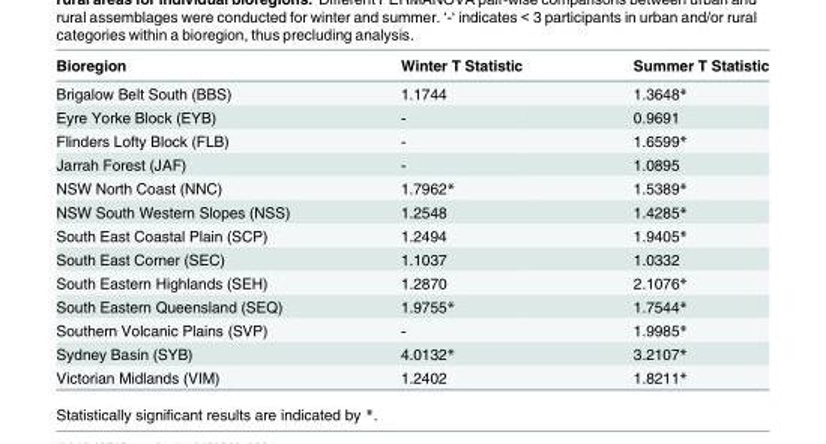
<table><thead><tr><td>Bioregion</td><td>Winter T Statistic</td><td>Summer T Statistic</td></tr></thead><tbody><tr><td>Brigalow Belt South (BBS)</td><td>1.1744</td><td>1.3648*</td></tr><tr><td>Eyre Yorke Block (EYB)</td><td>-</td><td>0.9691</td></tr><tr><td>Flinders Lofty Block (FLB)</td><td>-</td><td>1.6599*</td></tr><tr><td>Jarrah Forest (JAF)</td><td>-</td><td>1.0895</td></tr><tr><td>NSW North Coast (NNC)</td><td>1.7962*</td><td>1.5389*</td></tr><tr><td>NSW South Western Slopes (NSS)</td><td>1.2548</td><td>1.4285*</td></tr><tr><td>South East Coastal Plain (SCP)</td><td>1.2494</td><td>1.9405*</td></tr><tr><td>South East Corner (SEC)</td><td>1.1037</td><td>1.0332</td></tr><tr><td>South Eastern Highlands (SEH)</td><td>1.2870</td><td>2.1076*</td></tr><tr><td>South Eastern Queensland (SEQ)</td><td>1.9755*</td><td>1.7544*</td></tr><tr><td>Southern Volcanic Plains (SVP)</td><td>-</td><td>1.9985*</td></tr><tr><td>Sydney Basin (SYB)</td><td>4.0132*</td><td>3.2107*</td></tr><tr><td>Victorian Midlands (VIM)</td><td>1.2402</td><td>1.8211*</td></tr></tbody></table>